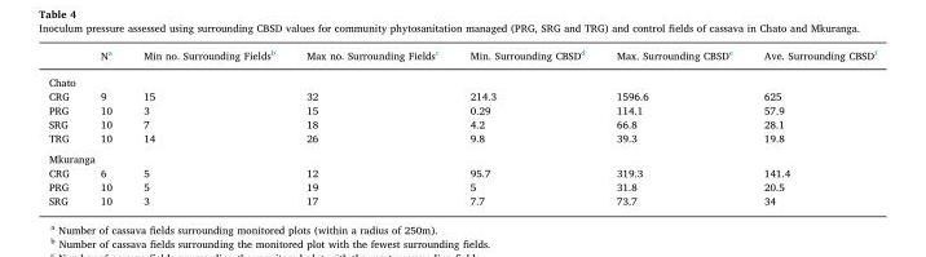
<table><thead><tr><td></td><td>N<sup>a</sup></td><td>Min no. Surrounding Fields<sup>b</sup></td><td>Max no. Surrounding Fields<sup>c</sup></td><td>Min. Surrounding CBSD<sup>d</sup></td><td>Max. Surrounding CBSD<sup>e</sup></td><td>Ave. Surrounding CBSD<sup>f</sup></td></tr></thead><tbody><tr><td colspan="7">Chato</td></tr><tr><td>CRG</td><td>9</td><td>15</td><td>32</td><td>214.3</td><td>1596.6</td><td>625</td></tr><tr><td>PRG</td><td>10</td><td>3</td><td>15</td><td>0.29</td><td>114.1</td><td>57.9</td></tr><tr><td>SRG</td><td>10</td><td>7</td><td>18</td><td>4.2</td><td>66.8</td><td>28.1</td></tr><tr><td>TRG</td><td>10</td><td>14</td><td>26</td><td>9.8</td><td>39.3</td><td>19.8</td></tr><tr><td colspan="7">Mkuranga</td></tr><tr><td>CRG</td><td>6</td><td>5</td><td>12</td><td>95.7</td><td>319.3</td><td>141.4</td></tr><tr><td>PRG</td><td>10</td><td>5</td><td>19</td><td>5</td><td>31.8</td><td>20.5</td></tr><tr><td>SRG</td><td>10</td><td>3</td><td>17</td><td>7.7</td><td>73.7</td><td>34</td></tr></tbody></table>